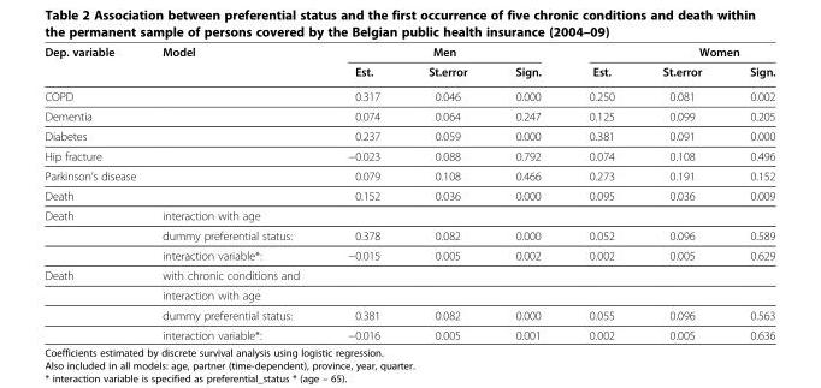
<table><thead><tr><td rowspan="2">Dep. variable</td><td rowspan="2">Model</td><td colspan="3">Men</td><td rowspan="2">Est.</td><td colspan="2">Women</td></tr><tr><td>Est.</td><td>St.error</td><td>Sign.</td><td>St.error</td><td>Sign.</td></tr></thead><tbody><tr><td>COPD</td><td></td><td>0.317</td><td>0.046</td><td>0.000</td><td>0.250</td><td>0.081</td><td>0.002</td></tr><tr><td>Dementia</td><td></td><td>0.074</td><td>0.064</td><td>0.247</td><td>0.125</td><td>0.099</td><td>0.205</td></tr><tr><td>Diabetes</td><td></td><td>0.237</td><td>0.059</td><td>0.000</td><td>0.381</td><td>0.091</td><td>0.000</td></tr><tr><td>Hip fracture</td><td></td><td>−0.023</td><td>0.088</td><td>0.792</td><td>0.074</td><td>0.108</td><td>0.496</td></tr><tr><td colspan="2">Parkinson’s disease</td><td>0.079</td><td>0.108</td><td>0.466</td><td>0.273</td><td>0.191</td><td>0.152</td></tr><tr><td>Death</td><td></td><td>0.152</td><td>0.036</td><td>0.000</td><td>0.095</td><td>0.036</td><td>0.009</td></tr><tr><td rowspan="3">Death</td><td>interaction with age</td><td></td><td></td><td></td><td></td><td></td><td></td></tr><tr><td>dummy preferential status:</td><td>0.378</td><td>0.082</td><td>0.000</td><td>0.052</td><td>0.096</td><td>0.589</td></tr><tr><td>interaction variable*:</td><td>−0.015</td><td>0.005</td><td>0.002</td><td>0.002</td><td>0.005</td><td>0.629</td></tr><tr><td rowspan="4">Death</td><td>with chronic conditions and</td><td></td><td></td><td></td><td></td><td></td><td></td></tr><tr><td>interaction with age</td><td></td><td></td><td></td><td></td><td></td><td></td></tr><tr><td>dummy preferential status:</td><td>0.381</td><td>0.082</td><td>0.000</td><td>0.055</td><td>0.096</td><td>0.563</td></tr><tr><td>interaction variable*:</td><td>−0.016</td><td>0.005</td><td>0.001</td><td>0.002</td><td>0.005</td><td>0.636</td></tr></tbody></table>